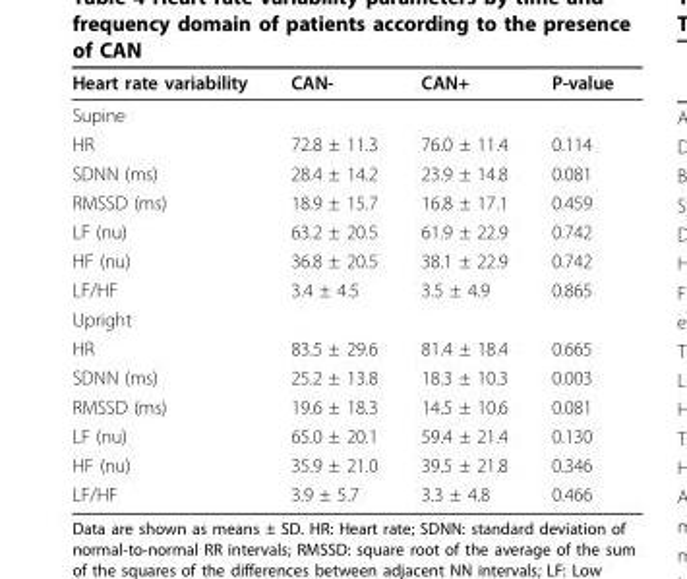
<table><thead><tr><td>Heart rate variability</td><td>CAN-</td><td>CAN+</td><td>P-value</td></tr></thead><tbody><tr><td colspan="4">Supine</td></tr><tr><td>HR</td><td>72.8 ± 11.3</td><td>76.0 ± 11.4</td><td>0.114</td></tr><tr><td>SDNN (ms)</td><td>28.4 ± 14.2</td><td>23.9 ± 14.8</td><td>0.081</td></tr><tr><td>RMSSD (ms)</td><td>18.9 ± 15.7</td><td>16.8 ± 17.1</td><td>0.459</td></tr><tr><td>LF (nu)</td><td>63.2 ± 20.5</td><td>61.9 ± 22.9</td><td>0.742</td></tr><tr><td>HF (nu)</td><td>36.8 ± 20.5</td><td>38.1 ± 22.9</td><td>0.742</td></tr><tr><td>LF/HF</td><td>3.4 ± 4.5</td><td>3.5 ± 4.9</td><td>0.865</td></tr><tr><td colspan="4">Upright</td></tr><tr><td>HR</td><td>83.5 ± 29.6</td><td>81.4 ± 18.4</td><td>0.665</td></tr><tr><td>SDNN (ms)</td><td>25.2 ± 13.8</td><td>18.3 ± 10.3</td><td>0.003</td></tr><tr><td>RMSSD (ms)</td><td>19.6 ± 18.3</td><td>14.5 ± 10.6</td><td>0.081</td></tr><tr><td>LF (nu)</td><td>65.0 ± 20.1</td><td>59.4 ± 21.4</td><td>0.130</td></tr><tr><td>HF (nu)</td><td>35.9 ± 21.0</td><td>39.5 ± 21.8</td><td>0.346</td></tr><tr><td>LF/HF</td><td>3.9 ± 5.7</td><td>3.3 ± 4.8</td><td>0.466</td></tr></tbody></table>